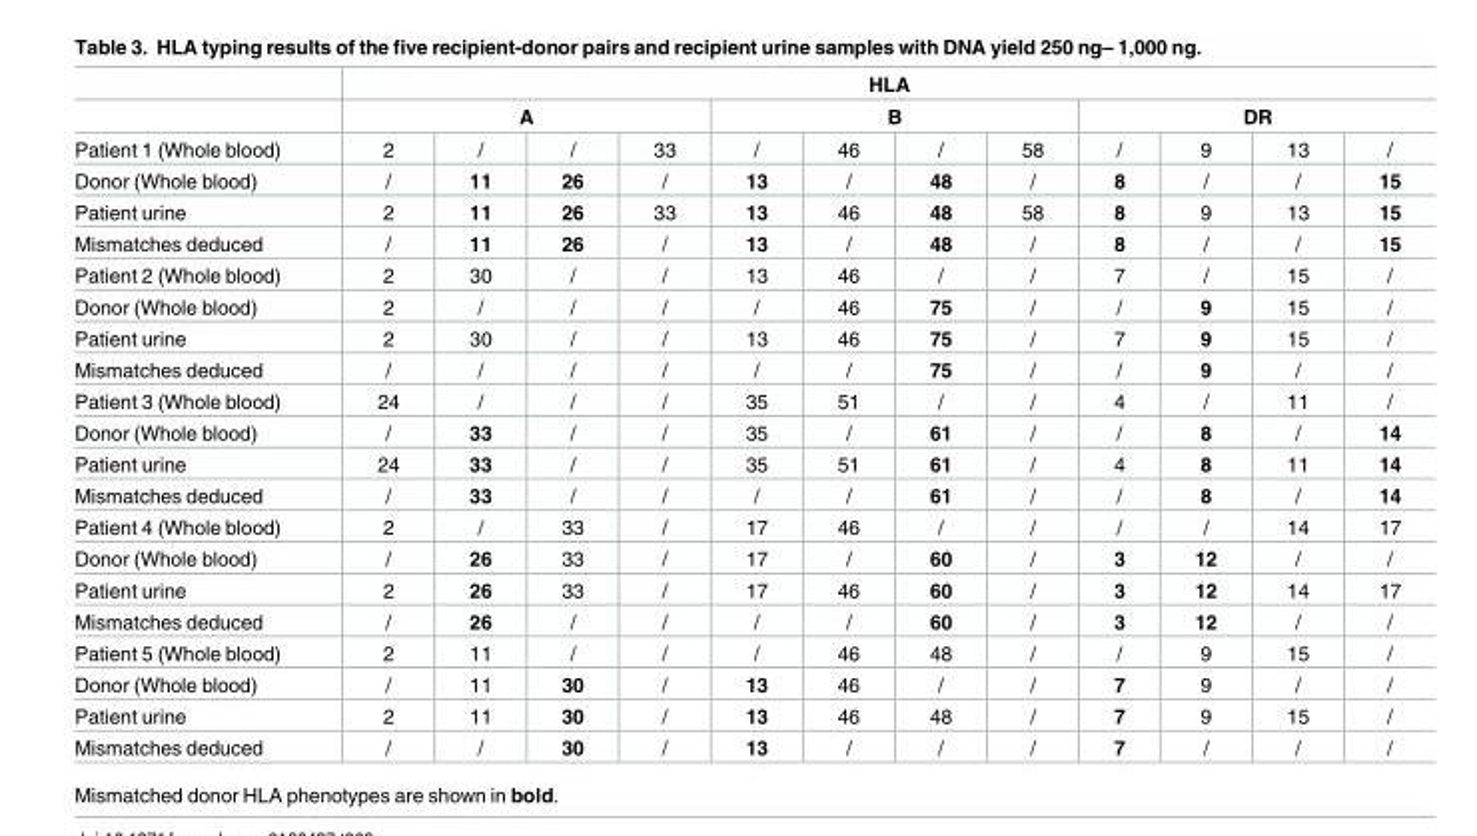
<table><thead><tr><td rowspan="3">Patient 1 (Whole blood)</td><td colspan="12">HLA</td></tr><tr><td colspan="4">A</td><td colspan="4">B</td><td colspan="4">DR</td></tr><tr><td>2</td><td>/</td><td>/</td><td>33</td><td>/</td><td>46</td><td>/</td><td>58</td><td>/</td><td>9</td><td>13</td><td>/</td></tr></thead><tbody><tr><td>Donor (Whole blood)</td><td>/</td><td>11</td><td>26</td><td>/</td><td>13</td><td>/</td><td>48</td><td>/</td><td>8</td><td>/</td><td>/</td><td>15</td></tr><tr><td>Patient urine</td><td>2</td><td>11</td><td>26</td><td>33</td><td>13</td><td>46</td><td>48</td><td>58</td><td>8</td><td>9</td><td>13</td><td>15</td></tr><tr><td>Mismatches deduced</td><td>/</td><td>11</td><td>26</td><td>/</td><td>13</td><td>/</td><td>48</td><td>/</td><td>8</td><td>/</td><td>/</td><td>15</td></tr><tr><td>Patient 2 (Whole blood)</td><td>2</td><td>30</td><td>/</td><td>/</td><td>13</td><td>46</td><td>/</td><td>/</td><td>7</td><td>/</td><td>15</td><td>/</td></tr><tr><td>Donor (Whole blood)</td><td>2</td><td>/</td><td>/</td><td>/</td><td>/</td><td>46</td><td>75</td><td>/</td><td>/</td><td>9</td><td>15</td><td>/</td></tr><tr><td>Patient urine</td><td>2</td><td>30</td><td>/</td><td>/</td><td>13</td><td>46</td><td>75</td><td>/</td><td>7</td><td>9</td><td>15</td><td>/</td></tr><tr><td>Mismatches deduced</td><td>/</td><td>/</td><td>/</td><td>/</td><td>/</td><td>/</td><td>75</td><td>/</td><td>/</td><td>9</td><td>/</td><td>/</td></tr><tr><td>Patient 3 (Whole blood)</td><td>24</td><td>/</td><td>/</td><td>/</td><td>35</td><td>51</td><td>/</td><td>/</td><td>4</td><td>/</td><td>11</td><td>/</td></tr><tr><td>Donor (Whole blood)</td><td>/</td><td>33</td><td>/</td><td>/</td><td>35</td><td>/</td><td>61</td><td>/</td><td>/</td><td>8</td><td>/</td><td>14</td></tr><tr><td>Patient urine</td><td>24</td><td>33</td><td>/</td><td>/</td><td>35</td><td>51</td><td>61</td><td>/</td><td>4</td><td>8</td><td>11</td><td>14</td></tr><tr><td>Mismatches deduced</td><td>/</td><td>33</td><td>/</td><td>/</td><td>/</td><td>/</td><td>61</td><td>/</td><td>/</td><td>8</td><td>/</td><td>14</td></tr><tr><td>Patient 4 (Whole blood)</td><td>2</td><td>/</td><td>33</td><td>/</td><td>17</td><td>46</td><td>/</td><td>/</td><td>/</td><td>/</td><td>14</td><td>17</td></tr><tr><td>Donor (Whole blood)</td><td>/</td><td>26</td><td>33</td><td>/</td><td>17</td><td>/</td><td>60</td><td>/</td><td>3</td><td>12</td><td>/</td><td>/</td></tr><tr><td>Patient urine</td><td>2</td><td>26</td><td>33</td><td>/</td><td>17</td><td>46</td><td>60</td><td>/</td><td>3</td><td>12</td><td>14</td><td>17</td></tr><tr><td>Mismatches deduced</td><td>/</td><td>26</td><td>/</td><td>/</td><td>/</td><td>/</td><td>60</td><td>/</td><td>3</td><td>12</td><td>/</td><td>/</td></tr><tr><td>Patient 5 (Whole blood)</td><td>2</td><td>11</td><td>/</td><td>/</td><td>/</td><td>46</td><td>48</td><td>/</td><td>/</td><td>9</td><td>15</td><td>/</td></tr><tr><td>Donor (Whole blood)</td><td>/</td><td>11</td><td>30</td><td>/</td><td>13</td><td>46</td><td>/</td><td>/</td><td>7</td><td>9</td><td>/</td><td>/</td></tr><tr><td>Patient urine</td><td>2</td><td>11</td><td>30</td><td>/</td><td>13</td><td>46</td><td>48</td><td>/</td><td>7</td><td>9</td><td>15</td><td>/</td></tr><tr><td>Mismatches deduced</td><td>/</td><td>/</td><td>30</td><td>/</td><td>13</td><td>/</td><td>/</td><td>/</td><td>7</td><td>/</td><td>/</td><td>/</td></tr></tbody></table>